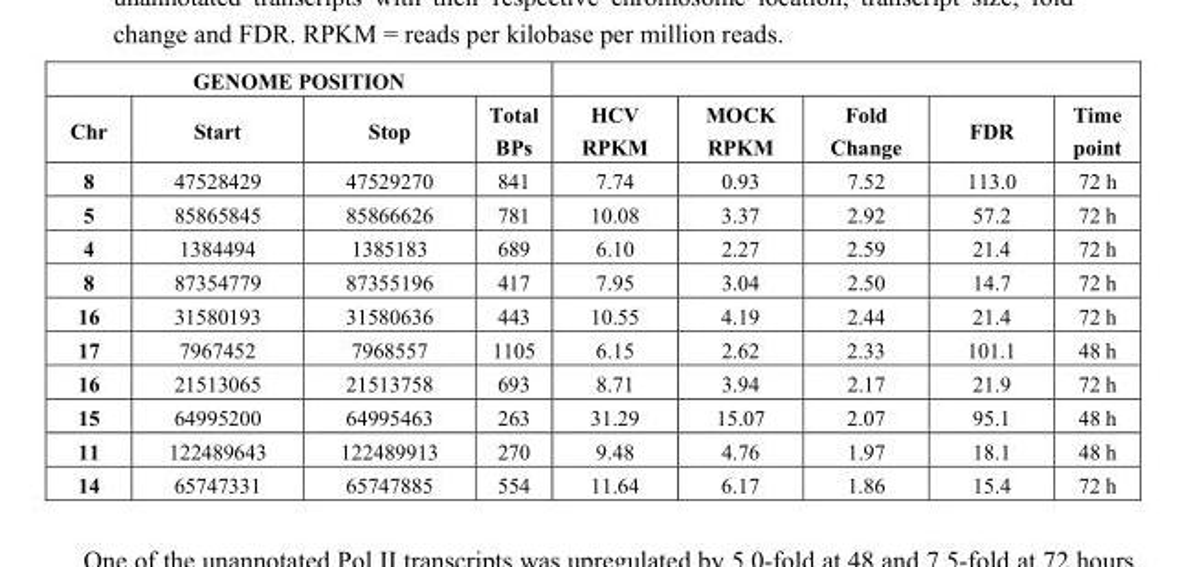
<table><thead><tr><td colspan="4">GENOME POSITION</td><td rowspan="2">HCV RPKM</td><td rowspan="2">MOCK RPKM</td><td rowspan="2">Fold Change</td><td rowspan="2">FDR</td><td rowspan="2">Time point</td></tr><tr><td>Chr</td><td>Start</td><td>Stop</td><td>Total BPs</td></tr></thead><tbody><tr><td>8</td><td>47528429</td><td>47529270</td><td>841</td><td>7.74</td><td>0.93</td><td>7.52</td><td>113.0</td><td>72 h</td></tr><tr><td>5</td><td>85865845</td><td>85866626</td><td>781</td><td>10.08</td><td>3.37</td><td>2.92</td><td>57.2</td><td>72 h</td></tr><tr><td>4</td><td>1384494</td><td>1385183</td><td>689</td><td>6.10</td><td>2.27</td><td>2.59</td><td>21.4</td><td>72 h</td></tr><tr><td>8</td><td>87354779</td><td>87355196</td><td>417</td><td>7.95</td><td>3.04</td><td>2.50</td><td>14.7</td><td>72 h</td></tr><tr><td>16</td><td>31580193</td><td>31580636</td><td>443</td><td>10.55</td><td>4.19</td><td>2.44</td><td>21.4</td><td>72 h</td></tr><tr><td>17</td><td>7967452</td><td>7968557</td><td>1105</td><td>6.15</td><td>2.62</td><td>2.33</td><td>101.1</td><td>48 h</td></tr><tr><td>16</td><td>21513065</td><td>21513758</td><td>693</td><td>8.71</td><td>3.94</td><td>2.17</td><td>21.9</td><td>72 h</td></tr><tr><td>15</td><td>64995200</td><td>64995463</td><td>263</td><td>31.29</td><td>15.07</td><td>2.07</td><td>95.1</td><td>48 h</td></tr><tr><td>11</td><td>122489643</td><td>122489913</td><td>270</td><td>9.48</td><td>4.76</td><td>1.97</td><td>18.1</td><td>48 h</td></tr><tr><td>14</td><td>65747331</td><td>65747885</td><td>554</td><td>11.64</td><td>6.17</td><td>1.86</td><td>15.4</td><td>72 h</td></tr></tbody></table>